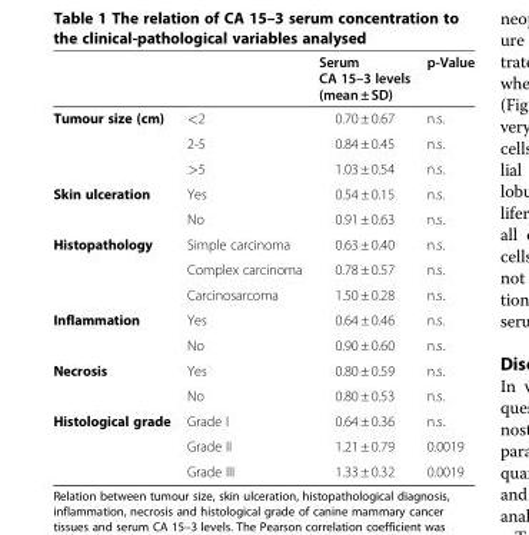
<table><thead><tr><td></td><td></td><td>Serum CA 15–3 levels (mean ± SD)</td><td>p-Value</td></tr></thead><tbody><tr><td rowspan="3">Tumour size (cm)</td><td>&lt;2</td><td>0.70 ± 0.67</td><td>n.s.</td></tr><tr><td>2-5</td><td>0.84 ± 0.45</td><td>n.s.</td></tr><tr><td>&gt;5</td><td>1.03 ± 0.54</td><td>n.s.</td></tr><tr><td rowspan="2">Skin ulceration</td><td>Yes</td><td>0.54 ± 0.15</td><td>n.s.</td></tr><tr><td>No</td><td>0.91 ± 0.63</td><td>n.s.</td></tr><tr><td rowspan="3">Histopathology</td><td>Simple carcinoma</td><td>0.63 ± 0.40</td><td>n.s.</td></tr><tr><td>Complex carcinoma</td><td>0.78 ± 0.57</td><td>n.s.</td></tr><tr><td>Carcinosarcoma</td><td>1.50 ± 0.28</td><td>n.s.</td></tr><tr><td rowspan="2">Inflammation</td><td>Yes</td><td>0.64 ± 0.46</td><td>n.s.</td></tr><tr><td>No</td><td>0.90 ± 0.60</td><td>n.s.</td></tr><tr><td rowspan="2">Necrosis</td><td>Yes</td><td>0.80 ± 0.59</td><td>n.s.</td></tr><tr><td>No</td><td>0.80 ± 0.53</td><td>n.s.</td></tr><tr><td rowspan="3">Histological grade</td><td>Grade I</td><td>0.64 ± 0.36</td><td>n.s.</td></tr><tr><td>Grade II</td><td>1.21 ± 0.79</td><td>0.0019</td></tr><tr><td>Grade III</td><td>1.33 ± 0.32</td><td>0.0019</td></tr></tbody></table>